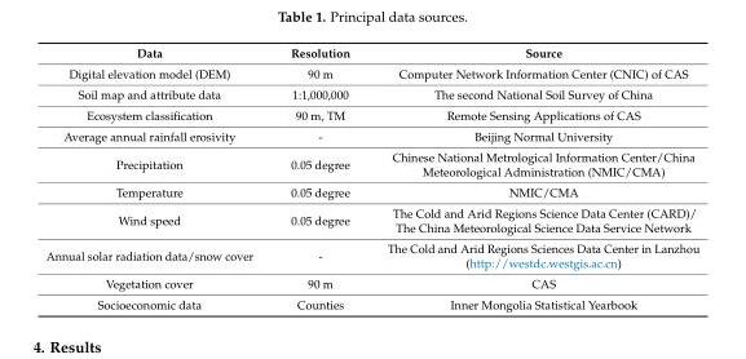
<table><thead><tr><td>Data</td><td>Resolution</td><td>Source</td></tr></thead><tbody><tr><td>Digital elevation model (DEM)</td><td>90 m</td><td>Computer Network Information Center (CNIC) of CAS</td></tr><tr><td>Soil map and attribute data</td><td>1:1,000,000</td><td>The second National Soil Survey of China</td></tr><tr><td>Ecosystem classification</td><td>90 m, TM</td><td>Remote Sensing Applications of CAS</td></tr><tr><td>Average annual rainfall erosivity</td><td>-</td><td>Beijing Normal University</td></tr><tr><td>Precipitation</td><td>0.05 degree</td><td>Chinese National Metrological Information Center/China Meteorological Administration (NMIC/CMA)</td></tr><tr><td>Temperature</td><td>0.05 degree</td><td>NMIC/CMA</td></tr><tr><td>Wind speed</td><td>0.05 degree</td><td>The Cold and Arid Regions Science Data Center (CARD)/ The China Meteorological Science Data Service Network</td></tr><tr><td>Annual solar radiation data/snow cover</td><td>-</td><td>The Cold and Arid Regions Sciences Data Center in Lanzhou (http://westdc.westgis.ac.cn)</td></tr><tr><td>Vegetation cover</td><td>90 m</td><td>CAS</td></tr><tr><td>Socioeconomic data</td><td>Counties</td><td>Inner Mongolia Statistical Yearbook</td></tr></tbody></table>